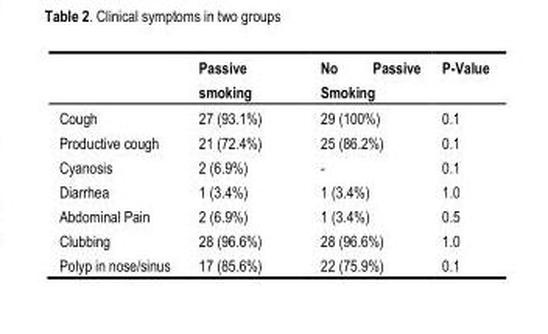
<table><thead><tr><td></td><td>Passive smoking</td><td>No Passive Smoking</td><td>P-Value</td></tr></thead><tbody><tr><td>Cough</td><td>27 (93.1%)</td><td>29 (100%)</td><td>0.1</td></tr><tr><td>Productive cough</td><td>21 (72.4%)</td><td>25 (86.2%)</td><td>0.1</td></tr><tr><td>Cyanosis</td><td>2 (6.9%)</td><td>-</td><td>0.1</td></tr><tr><td>Diarrhea</td><td>1 (3.4%)</td><td>1 (3.4%)</td><td>1.0</td></tr><tr><td>Abdominal Pain</td><td>2 (6.9%)</td><td>1 (3.4%)</td><td>0.5</td></tr><tr><td>Clubbing</td><td>28 (96.6%)</td><td>28 (96.6%)</td><td>1.0</td></tr><tr><td>Polyp in nose/sinus</td><td>17 (85.6%)</td><td>22 (75.9%)</td><td>0.1</td></tr></tbody></table>